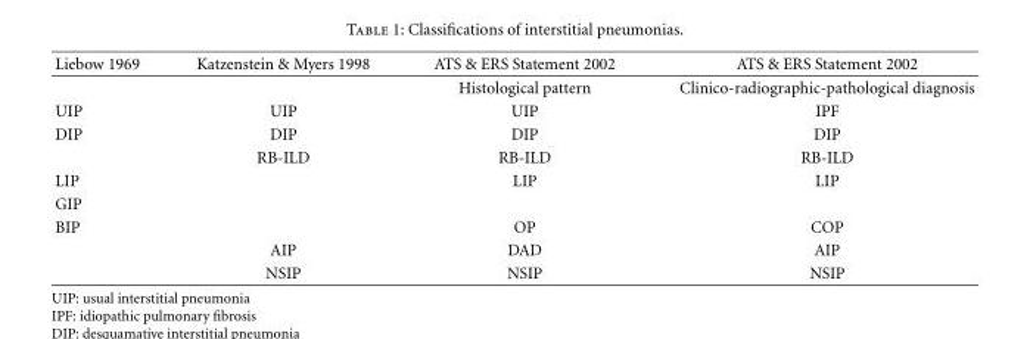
<table><thead><tr><td>Liebow 1969</td><td>Katzenstein &amp; Myers 1998</td><td>ATS &amp; ERS Statement 2002</td><td>ATS &amp; ERS Statement 2002</td></tr></thead><tbody><tr><td></td><td></td><td>Histological pattern</td><td>Clinico-radiographic-pathological diagnosis</td></tr><tr><td>UIP</td><td>UIP</td><td>UIP</td><td>IPF</td></tr><tr><td rowspan="2">DIP</td><td>DIP</td><td>DIP</td><td>DIP</td></tr><tr><td>RB-ILD</td><td>RB-ILD</td><td>RB-ILD</td></tr><tr><td>LIP</td><td></td><td>LIP</td><td>LIP</td></tr><tr><td colspan="4">GIP</td></tr><tr><td rowspan="3">BIP</td><td></td><td>OP</td><td>COP</td></tr><tr><td>AIP</td><td>DAD</td><td>AIP</td></tr><tr><td>NSIP</td><td>NSIP</td><td>NSIP</td></tr></tbody></table>